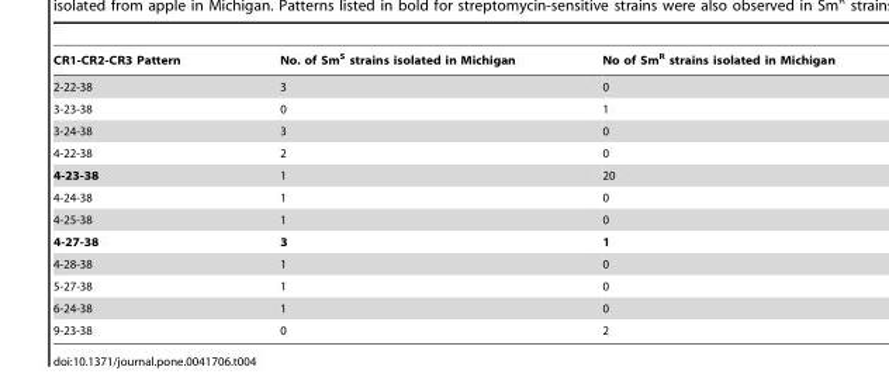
<table><thead><tr><td>CR1-CR2-CR3 Pattern</td><td>No. of Sm<sup>S</sup> strains isolated in Michigan</td><td>No of Sm<sup>R</sup> strains isolated in Michigan</td></tr></thead><tbody><tr><td>2-22-38</td><td>3</td><td>0</td></tr><tr><td>3-23-38</td><td>0</td><td>1</td></tr><tr><td>3-24-38</td><td>3</td><td>0</td></tr><tr><td>4-22-38</td><td>2</td><td>0</td></tr><tr><td>4-23-38</td><td>1</td><td>20</td></tr><tr><td>4-24-38</td><td>1</td><td>0</td></tr><tr><td>4-25-38</td><td>1</td><td>0</td></tr><tr><td>4-27-38</td><td>3</td><td>1</td></tr><tr><td>4-28-38</td><td>1</td><td>0</td></tr><tr><td>5-27-38</td><td>1</td><td>0</td></tr><tr><td>6-24-38</td><td>1</td><td>0</td></tr><tr><td>9-23-38</td><td>0</td><td>2</td></tr></tbody></table>